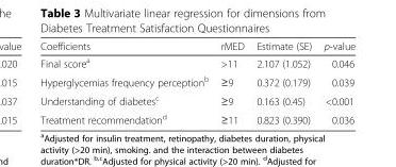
<table><thead><tr><td>Coefficients</td><td>rMED</td><td>Estimate (SE)</td><td>p-value</td></tr></thead><tbody><tr><td>Final score<sup>a</sup></td><td>&gt;11</td><td>2.107 (1.052)</td><td>0.046</td></tr><tr><td>Hyperglycemias frequency perception<sup>b</sup></td><td>≥9</td><td>0.372 (0.179)</td><td>0.039</td></tr><tr><td>Understanding of diabetes<sup>c</sup></td><td>≥9</td><td>0.163 (0.45)</td><td>&lt;0.001</td></tr><tr><td>Treatment recommendation<sup>d</sup></td><td>≥11</td><td>0.823 (0.390)</td><td>0.036</td></tr></tbody></table>